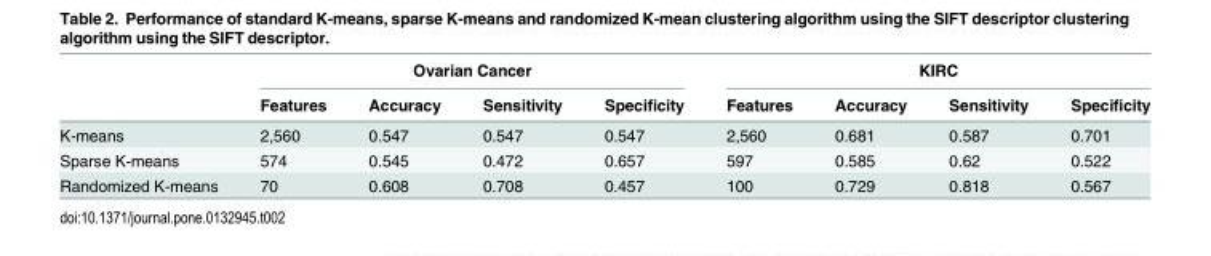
<table><thead><tr><td rowspan="2"></td><td colspan="4">Ovarian Cancer</td><td colspan="4">KIRC</td></tr><tr><td>Features</td><td>Accuracy</td><td>Sensitivity</td><td>Specificity</td><td>Features</td><td>Accuracy</td><td>Sensitivity</td><td>Specificity</td></tr></thead><tbody><tr><td>K-means</td><td>2,560</td><td>0.547</td><td>0.547</td><td>0.547</td><td>2,560</td><td>0.681</td><td>0.587</td><td>0.701</td></tr><tr><td>Sparse K-means</td><td>574</td><td>0.545</td><td>0.472</td><td>0.657</td><td>597</td><td>0.585</td><td>0.62</td><td>0.522</td></tr><tr><td>Randomized K-means</td><td>70</td><td>0.608</td><td>0.708</td><td>0.457</td><td>100</td><td>0.729</td><td>0.818</td><td>0.567</td></tr></tbody></table>